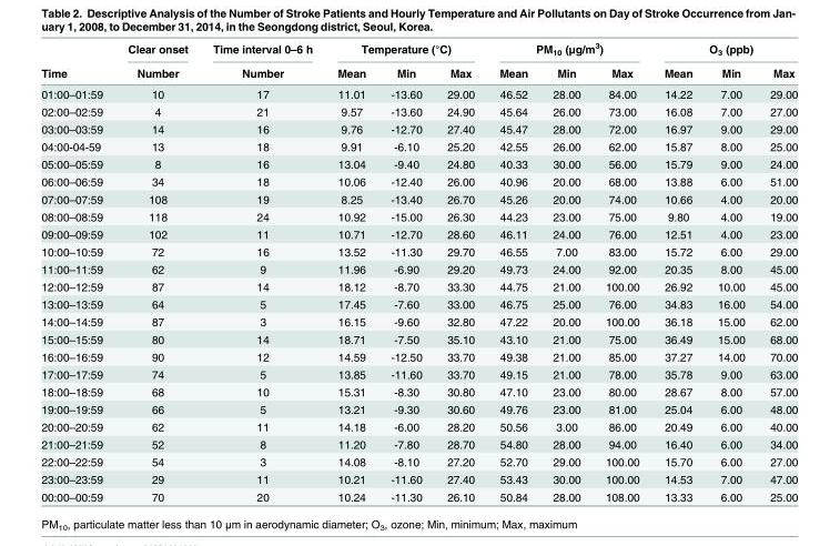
<table><thead><tr><td rowspan="2">Time</td><td rowspan="2">Clear onset Number</td><td rowspan="2">Time interval 0–6 h Number</td><td colspan="3">Temperature (°C)</td><td colspan="3">PM<sub>10</sub> (μg/m<sup>3</sup>)</td><td colspan="3">O<sub>3</sub> (ppb)</td></tr><tr><td>Mean</td><td>Min</td><td>Max</td><td>Mean</td><td>Min</td><td>Max</td><td>Mean</td><td>Min</td><td>Max</td></tr></thead><tbody><tr><td>01:00–01:59</td><td>10</td><td>17</td><td>11.01</td><td>-13.60</td><td>29.00</td><td>46.52</td><td>28.00</td><td>84.00</td><td>14.22</td><td>7.00</td><td>29.00</td></tr><tr><td>02:00–02:59</td><td>4</td><td>21</td><td>9.57</td><td>-13.60</td><td>24.90</td><td>45.64</td><td>26.00</td><td>73.00</td><td>16.08</td><td>7.00</td><td>27.00</td></tr><tr><td>03:00–03:59</td><td>14</td><td>16</td><td>9.76</td><td>-12.70</td><td>27.40</td><td>45.47</td><td>28.00</td><td>72.00</td><td>16.97</td><td>9.00</td><td>29.00</td></tr><tr><td>04:00-04-59</td><td>13</td><td>18</td><td>9.91</td><td>-6.10</td><td>25.20</td><td>42.55</td><td>26.00</td><td>62.00</td><td>15.87</td><td>8.00</td><td>25.00</td></tr><tr><td>05:00–05:59</td><td>8</td><td>16</td><td>13.04</td><td>-9.40</td><td>24.80</td><td>40.33</td><td>30.00</td><td>56.00</td><td>15.79</td><td>9.00</td><td>24.00</td></tr><tr><td>06:00–06:59</td><td>34</td><td>18</td><td>10.06</td><td>-12.40</td><td>26.00</td><td>40.96</td><td>20.00</td><td>68.00</td><td>13.88</td><td>6.00</td><td>51.00</td></tr><tr><td>07:00–07:59</td><td>108</td><td>19</td><td>8.25</td><td>-13.40</td><td>26.70</td><td>45.26</td><td>20.00</td><td>74.00</td><td>10.66</td><td>4.00</td><td>20.00</td></tr><tr><td>08:00–08:59</td><td>118</td><td>24</td><td>10.92</td><td>-15.00</td><td>26.30</td><td>44.23</td><td>23.00</td><td>75.00</td><td>9.80</td><td>4.00</td><td>19.00</td></tr><tr><td>09:00–09:59</td><td>102</td><td>11</td><td>10.71</td><td>-12.70</td><td>28.60</td><td>46.11</td><td>24.00</td><td>76.00</td><td>12.51</td><td>4.00</td><td>23.00</td></tr><tr><td>10:00–10:59</td><td>72</td><td>16</td><td>13.52</td><td>-11.30</td><td>29.70</td><td>46.55</td><td>7.00</td><td>83.00</td><td>15.72</td><td>6.00</td><td>29.00</td></tr><tr><td>11:00–11:59</td><td>62</td><td>9</td><td>11.96</td><td>-6.90</td><td>29.20</td><td>49.73</td><td>24.00</td><td>92.00</td><td>20.35</td><td>8.00</td><td>45.00</td></tr><tr><td>12:00–12:59</td><td>87</td><td>14</td><td>18.12</td><td>-8.70</td><td>33.30</td><td>44.75</td><td>21.00</td><td>100.00</td><td>26.92</td><td>10.00</td><td>45.00</td></tr><tr><td>13:00–13:59</td><td>64</td><td>5</td><td>17.45</td><td>-7.60</td><td>33.00</td><td>46.75</td><td>25.00</td><td>76.00</td><td>34.83</td><td>16.00</td><td>54.00</td></tr><tr><td>14:00–14:59</td><td>87</td><td>3</td><td>16.15</td><td>-9.60</td><td>32.80</td><td>47.22</td><td>20.00</td><td>100.00</td><td>36.18</td><td>15.00</td><td>62.00</td></tr><tr><td>15:00–15:59</td><td>80</td><td>14</td><td>18.71</td><td>-7.50</td><td>35.10</td><td>43.10</td><td>21.00</td><td>75.00</td><td>36.49</td><td>15.00</td><td>68.00</td></tr><tr><td>16:00–16:59</td><td>90</td><td>12</td><td>14.59</td><td>-12.50</td><td>33.70</td><td>49.38</td><td>21.00</td><td>85.00</td><td>37.27</td><td>14.00</td><td>70.00</td></tr><tr><td>17:00–17:59</td><td>74</td><td>5</td><td>13.85</td><td>-11.60</td><td>33.70</td><td>49.15</td><td>21.00</td><td>78.00</td><td>35.78</td><td>9.00</td><td>63.00</td></tr><tr><td>18:00–18:59</td><td>68</td><td>10</td><td>15.31</td><td>-8.30</td><td>30.80</td><td>47.10</td><td>23.00</td><td>80.00</td><td>28.67</td><td>8.00</td><td>57.00</td></tr><tr><td>19:00–19:59</td><td>66</td><td>5</td><td>13.21</td><td>-9.30</td><td>30.60</td><td>49.76</td><td>23.00</td><td>81.00</td><td>25.04</td><td>6.00</td><td>48.00</td></tr><tr><td>20:00–20:59</td><td>62</td><td>11</td><td>14.18</td><td>-6.00</td><td>28.20</td><td>50.56</td><td>3.00</td><td>86.00</td><td>20.49</td><td>6.00</td><td>40.00</td></tr><tr><td>21:00–21:59</td><td>52</td><td>8</td><td>11.20</td><td>-7.80</td><td>28.70</td><td>54.80</td><td>28.00</td><td>94.00</td><td>16.40</td><td>6.00</td><td>34.00</td></tr><tr><td>22:00–22:59</td><td>54</td><td>3</td><td>14.08</td><td>-8.10</td><td>27.20</td><td>52.70</td><td>29.00</td><td>100.00</td><td>15.70</td><td>6.00</td><td>27.00</td></tr><tr><td>23:00–23:59</td><td>29</td><td>11</td><td>10.21</td><td>-11.60</td><td>27.40</td><td>53.43</td><td>30.00</td><td>100.00</td><td>14.53</td><td>7.00</td><td>47.00</td></tr><tr><td>00:00–00:59</td><td>70</td><td>20</td><td>10.24</td><td>-11.30</td><td>26.10</td><td>50.84</td><td>28.00</td><td>108.00</td><td>13.33</td><td>6.00</td><td>25.00</td></tr></tbody></table>